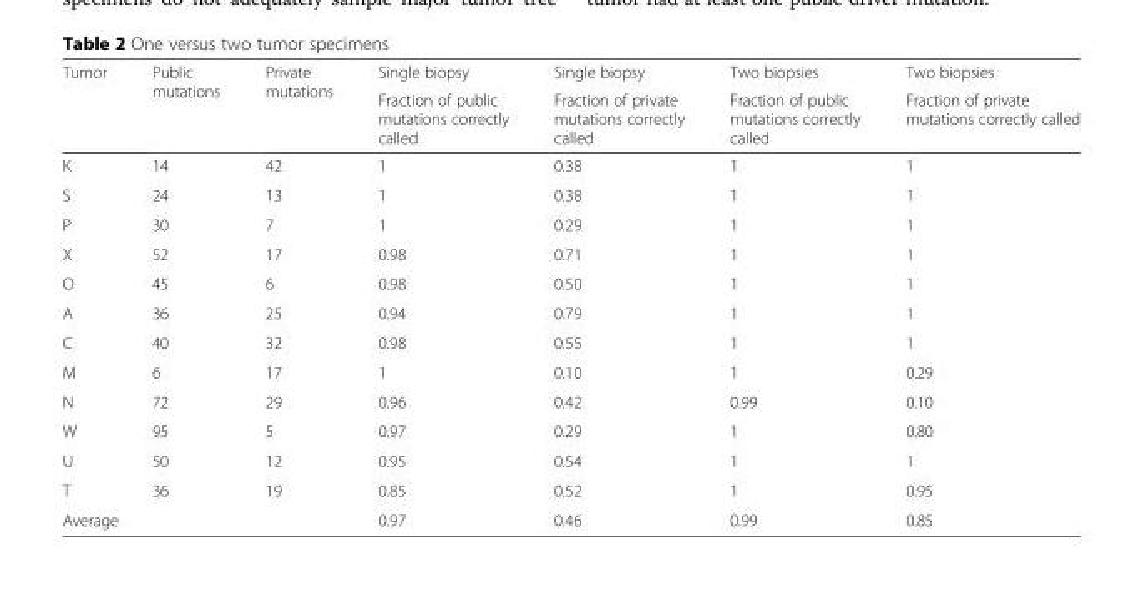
<table><thead><tr><td rowspan="2">Tumor</td><td rowspan="2">Public mutations</td><td rowspan="2">Private mutations</td><td rowspan="2">Single biopsy Fraction of public mutations correctly called</td><td rowspan="2">Single biopsy Fraction of private mutations correctly called</td><td rowspan="2">Two biopsies Fraction of public mutations correctly called</td><td rowspan="2">Two biopsies Fraction of private mutations correctly called</td></tr><tr></tr></thead><tbody><tr><td>K</td><td>14</td><td>42</td><td>1</td><td>0.38</td><td>1</td><td>1</td></tr><tr><td>S</td><td>24</td><td>13</td><td>1</td><td>0.38</td><td>1</td><td>1</td></tr><tr><td>P</td><td>30</td><td>7</td><td>1</td><td>0.29</td><td>1</td><td>1</td></tr><tr><td>X</td><td>52</td><td>17</td><td>0.98</td><td>0.71</td><td>1</td><td>1</td></tr><tr><td>O</td><td>45</td><td>6</td><td>0.98</td><td>0.50</td><td>1</td><td>1</td></tr><tr><td>A</td><td>36</td><td>25</td><td>0.94</td><td>0.79</td><td>1</td><td>1</td></tr><tr><td>C</td><td>40</td><td>32</td><td>0.98</td><td>0.55</td><td>1</td><td>1</td></tr><tr><td>M</td><td>6</td><td>17</td><td>1</td><td>0.10</td><td>1</td><td>0.29</td></tr><tr><td>N</td><td>72</td><td>29</td><td>0.96</td><td>0.42</td><td>0.99</td><td>0.10</td></tr><tr><td>W</td><td>95</td><td>5</td><td>0.97</td><td>0.29</td><td>1</td><td>0.80</td></tr><tr><td>U</td><td>50</td><td>12</td><td>0.95</td><td>0.54</td><td>1</td><td>1</td></tr><tr><td>T</td><td>36</td><td>19</td><td>0.85</td><td>0.52</td><td>1</td><td>0.95</td></tr><tr><td colspan="3">Average</td><td>0.97</td><td>0.46</td><td>0.99</td><td>0.85</td></tr></tbody></table>